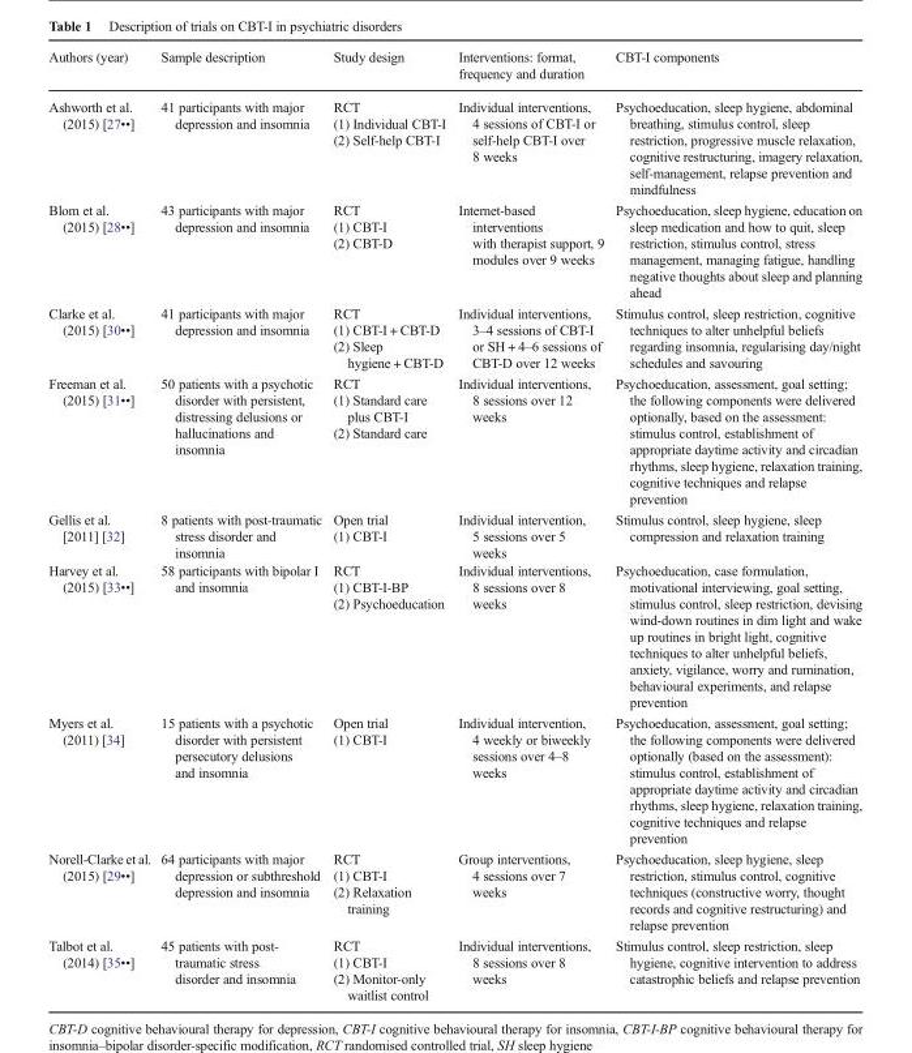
<table><thead><tr><td>Authors (year)</td><td>Sample description</td><td>Study design</td><td>Interventions: format, frequency and duration</td><td>CBT-I components</td></tr></thead><tbody><tr><td>Ashworth et al. (2015) [27••]</td><td>41 participants with major depression and insomnia</td><td>RCT (1) Individual CBT-I (2) Self-help CBT-I</td><td>Individual interventions, 4 sessions of CBT-I or self-help CBT-I over 8 weeks</td><td>Psychoeducation, sleep hygiene, abdominal breathing, stimulus control, sleep restriction, progressive muscle relaxation, cognitive restructuring, imagery relaxation, self-management, relapse prevention and mindfulness</td></tr><tr><td>Blom et al. (2015) [28••]</td><td>43 participants with major depression and insomnia</td><td>RCT (1) CBT-I (2) CBT-D</td><td>Internet-based interventions with therapist support, 9 modules over 9 weeks</td><td>Psychoeducation, sleep hygiene, education on sleep medication and how to quit, sleep restriction, stimulus control, stress management, managing fatigue, handling negative thoughts about sleep and planning ahead</td></tr><tr><td>Clarke et al. (2015) [30••]</td><td>41 participants with major depression and insomnia</td><td>RCT (1) CBT-I + CBT-D (2) Sleep hygiene + CBT-D</td><td>Individual interventions, 3–4 sessions of CBT-I or SH + 4–6 sessions of CBT-D over 12 weeks</td><td>Stimulus control, sleep restriction, cognitive techniques to alter unhelpful beliefs regarding insomnia, regularising day/night schedules and savouring</td></tr><tr><td>Freeman et al. (2015) [31••]</td><td>50 patients with a psychotic disorder with persistent, distressing delusions or hallucinations and insomnia</td><td>RCT (1) Standard care plus CBT-I (2) Standard care</td><td>Individual interventions, 8 sessions over 12 weeks</td><td>Psychoeducation, assessment, goal setting; the following components were delivered optionally, based on the assessment: stimulus control, establishment of appropriate daytime activity and circadian rhythms, sleep hygiene, relaxation training, cognitive techniques and relapse prevention</td></tr><tr><td>Gellis et al. [2011] [32]</td><td>8 patients with post-traumatic stress disorder and insomnia</td><td>Open trial (1) CBT-I</td><td>Individual intervention, 5 sessions over 5 weeks</td><td>Stimulus control, sleep hygiene, sleep compression and relaxation training</td></tr><tr><td>Harvey et al. (2015) [33••]</td><td>58 participants with bipolar I and insomnia</td><td>RCT (1) CBT-I-BP (2) Psychoeducation</td><td>Individual interventions, 8 sessions over 8 weeks</td><td>Psychoeducation, case formulation, motivational interviewing, goal setting, stimulus control, sleep restriction, devising wind-down routines in dim light and wake up routines in bright light, cognitive techniques to alter unhelpful beliefs, anxiety, vigilance, worry and rumination, behavioural experiments, and relapse prevention</td></tr><tr><td>Myers et al. (2011) [34]</td><td>15 patients with a psychotic disorder with persistent persecutory delusions and insomnia</td><td>Open trial (1) CBT-I</td><td>Individual intervention, 4 weekly or biweekly sessions over 4–8 weeks</td><td>Psychoeducation, assessment, goal setting; the following components were delivered optionally (based on the assessment): stimulus control, establishment of appropriate daytime activity and circadian rhythms, sleep hygiene, relaxation training, cognitive techniques and relapse prevention</td></tr><tr><td>Norell-Clarke et al. (2015) [29••]</td><td>64 participants with major depression or subthreshold depression and insomnia</td><td>RCT (1) CBT-I (2) Relaxation training</td><td>Group interventions, 4 sessions over 7 weeks</td><td>Psychoeducation, sleep hygiene, sleep restriction, stimulus control, cognitive techniques (constructive worry, thought records and cognitive restructuring) and relapse prevention</td></tr><tr><td>Talbot et al. (2014) [35••]</td><td>45 patients with post- traumatic stress disorder and insomnia</td><td>RCT (1) CBT-I (2) Monitor-only waitlist control</td><td>Individual interventions, 8 sessions over 8 weeks</td><td>Stimulus control, sleep restriction, sleep hygiene, cognitive intervention to address catastrophic beliefs and relapse prevention</td></tr></tbody></table>